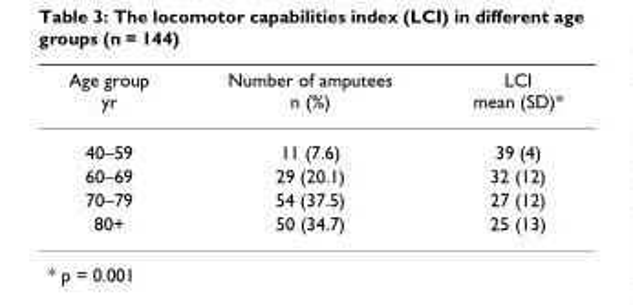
<table><thead><tr><td>Age group yr</td><td>Number of amputees n (%)</td><td>LCI mean (SD)*</td></tr></thead><tbody><tr><td>40–59</td><td>11 (7.6)</td><td>39 (4)</td></tr><tr><td>60–69</td><td>29 (20.1)</td><td>32 (12)</td></tr><tr><td>70–79</td><td>54 (37.5)</td><td>27 (12)</td></tr><tr><td>80+</td><td>50 (34.7)</td><td>25 (13)</td></tr></tbody></table>